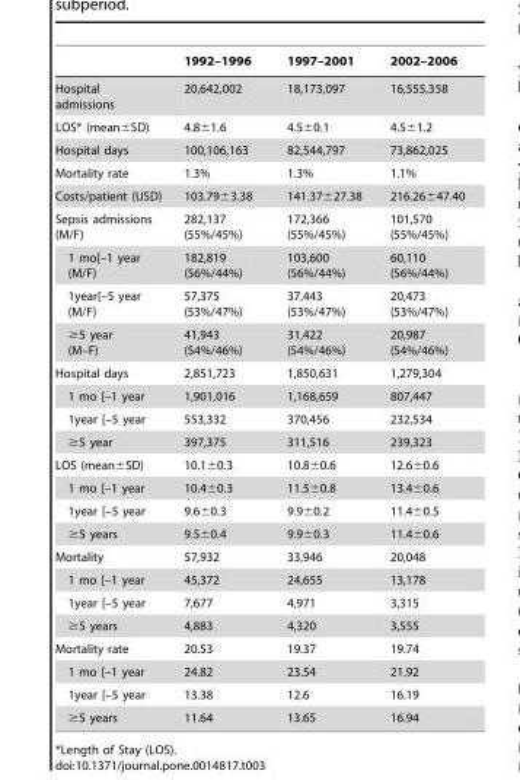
<table><thead><tr><td></td><td>1992–1996</td><td>1997–2001</td><td>2002–2006</td></tr></thead><tbody><tr><td>Hospital admissions</td><td>20,642,002</td><td>18,173,097</td><td>16,555,358</td></tr><tr><td>LOS* (mean±SD)</td><td>4.8±1.6</td><td>4.5±0.1</td><td>4.5±1.2</td></tr><tr><td>Hospital days</td><td>100,106,163</td><td>82,544,797</td><td>73,862,025</td></tr><tr><td>Mortality rate</td><td>1.3%</td><td>1.3%</td><td>1.1%</td></tr><tr><td>Costs/patient (USD)</td><td>103.79±3.38</td><td>141.37±27.38</td><td>216.26±47.40</td></tr><tr><td>Sepsis admissions (M/F)</td><td>282,137 (55%/45%)</td><td>172,366 (55%/45%)</td><td>101,570 (55%/45%)</td></tr><tr><td>1 mo[–1 year (M/F)</td><td>182,819 (56%/44%)</td><td>103,600 (56%/44%)</td><td>60,110 (56%/44%)</td></tr><tr><td>1year[–5 year (M/F)</td><td>57,375 (53%/47%)</td><td>37,443 (53%/47%)</td><td>20,473 (53%/47%)</td></tr><tr><td>≥5 year (M–F)</td><td>41,943 (54%/46%)</td><td>31,422 (54%/46%)</td><td>20,987 (54%/46%)</td></tr><tr><td>Hospital days</td><td>2,851,723</td><td>1,850,631</td><td>1,279,304</td></tr><tr><td>1 mo [–1 year</td><td>1,901,016</td><td>1,168,659</td><td>807,447</td></tr><tr><td>1year [–5 year</td><td>553,332</td><td>370,456</td><td>232,534</td></tr><tr><td>≥5 year</td><td>397,375</td><td>311,516</td><td>239,323</td></tr><tr><td>LOS (mean±SD)</td><td>10.1±0.3</td><td>10.8±0.6</td><td>12.6±0.6</td></tr><tr><td>1 mo [–1 year</td><td>10.4±0.3</td><td>11.5±0.8</td><td>13.4±0.6</td></tr><tr><td>1year [–5 year</td><td>9.6±0.3</td><td>9.9±0.2</td><td>11.4±0.5</td></tr><tr><td>≥5 years</td><td>9.5±0.4</td><td>9.9±0.3</td><td>11.4±0.6</td></tr><tr><td>Mortality</td><td>57,932</td><td>33,946</td><td>20,048</td></tr><tr><td>1 mo [–1 year</td><td>45,372</td><td>24,655</td><td>13,178</td></tr><tr><td>1year [–5 year</td><td>7,677</td><td>4,971</td><td>3,315</td></tr><tr><td>≥5 years</td><td>4,883</td><td>4,320</td><td>3,555</td></tr><tr><td>Mortality rate</td><td>20.53</td><td>19.37</td><td>19.74</td></tr><tr><td>1 mo [–1 year</td><td>24.82</td><td>23.54</td><td>21.92</td></tr><tr><td>1year [–5 year</td><td>13.38</td><td>12.6</td><td>16.19</td></tr><tr><td>≥5 years</td><td>11.64</td><td>13.65</td><td>16.94</td></tr></tbody></table>